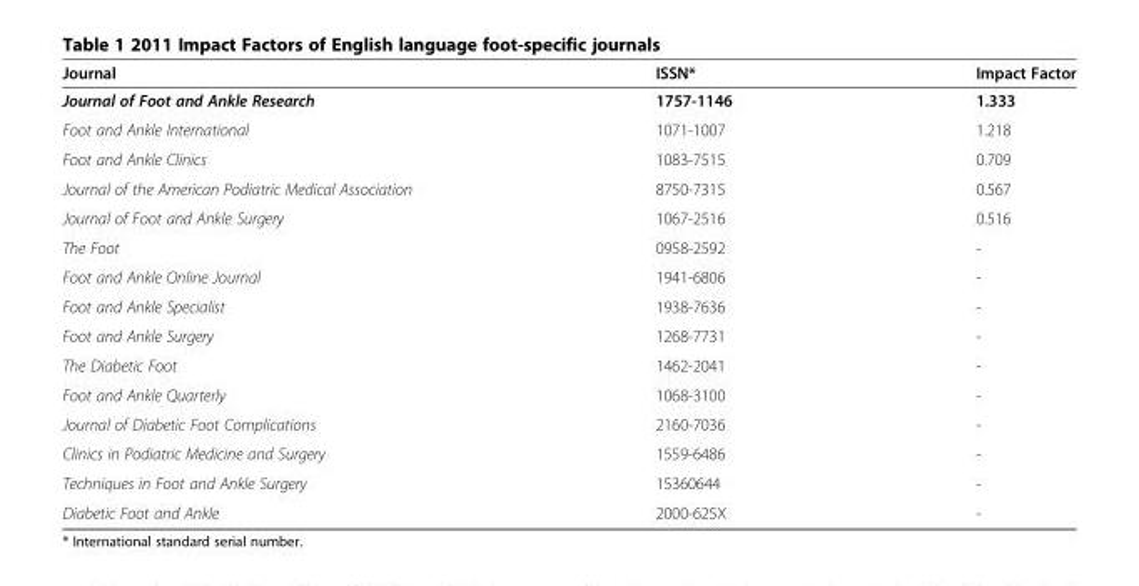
<table><thead><tr><td>Journal</td><td>ISSN*</td><td>Impact Factor</td></tr></thead><tbody><tr><td>Journal of Foot and Ankle Research</td><td>1757-1146</td><td>1.333</td></tr><tr><td>Foot and Ankle International</td><td>1071-1007</td><td>1.218</td></tr><tr><td>Foot and Ankle Clinics</td><td>1083-7515</td><td>0.709</td></tr><tr><td>Journal of the American Podiatric Medical Association</td><td>8750-7315</td><td>0.567</td></tr><tr><td>Journal of Foot and Ankle Surgery</td><td>1067-2516</td><td>0.516</td></tr><tr><td>The Foot</td><td>0958-2592</td><td>-</td></tr><tr><td>Foot and Ankle Online Journal</td><td>1941-6806</td><td>-</td></tr><tr><td>Foot and Ankle Specialist</td><td>1938-7636</td><td>-</td></tr><tr><td>Foot and Ankle Surgery</td><td>1268-7731</td><td>-</td></tr><tr><td>The Diabetic Foot</td><td>1462-2041</td><td>-</td></tr><tr><td>Foot and Ankle Quarterly</td><td>1068-3100</td><td>-</td></tr><tr><td>Journal of Diabetic Foot Complications</td><td>2160-7036</td><td>-</td></tr><tr><td>Clinics in Podiatric Medicine and Surgery</td><td>1559-6486</td><td>-</td></tr><tr><td>Techniques in Foot and Ankle Surgery</td><td>15360644</td><td>-</td></tr><tr><td>Diabetic Foot and Ankle</td><td>2000-625X</td><td>-</td></tr></tbody></table>